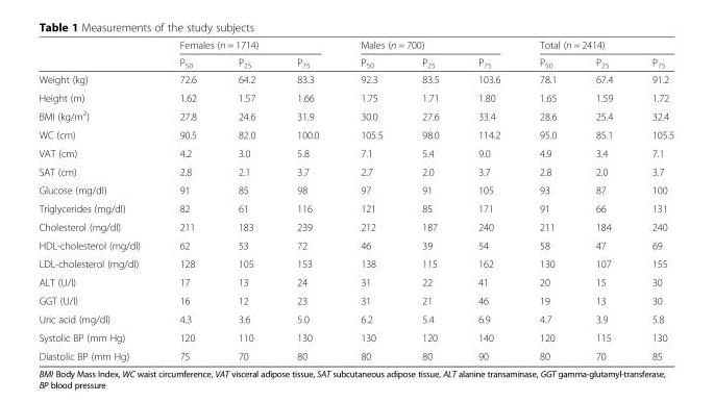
<table><thead><tr><td rowspan="2"></td><td colspan="3">Females (n = 1714)</td><td colspan="3">Males (n = 700)</td><td colspan="3">Total (n = 2414)</td></tr><tr><td>P<sub>50</sub></td><td>P<sub>25</sub></td><td>P<sub>75</sub></td><td>P<sub>50</sub></td><td>P<sub>25</sub></td><td>P<sub>75</sub></td><td>P<sub>50</sub></td><td>P<sub>25</sub></td><td>P<sub>75</sub></td></tr></thead><tbody><tr><td>Weight (kg)</td><td>72.6</td><td>64.2</td><td>83.3</td><td>92.3</td><td>83.5</td><td>103.6</td><td>78.1</td><td>67.4</td><td>91.2</td></tr><tr><td>Height (m)</td><td>1.62</td><td>1.57</td><td>1.66</td><td>1.75</td><td>1.71</td><td>1.80</td><td>1.65</td><td>1.59</td><td>1.72</td></tr><tr><td>BMI (kg/m<sup>2</sup>)</td><td>27.8</td><td>24.6</td><td>31.9</td><td>30.0</td><td>27.6</td><td>33.4</td><td>28.6</td><td>25.4</td><td>32.4</td></tr><tr><td>WC (cm)</td><td>90.5</td><td>82.0</td><td>100.0</td><td>105.5</td><td>98.0</td><td>114.2</td><td>95.0</td><td>85.1</td><td>105.5</td></tr><tr><td>VAT (cm)</td><td>4.2</td><td>3.0</td><td>5.8</td><td>7.1</td><td>5.4</td><td>9.0</td><td>4.9</td><td>3.4</td><td>7.1</td></tr><tr><td>SAT (cm)</td><td>2.8</td><td>2.1</td><td>3.7</td><td>2.7</td><td>2.0</td><td>3.7</td><td>2.8</td><td>2.0</td><td>3.7</td></tr><tr><td>Glucose (mg/dl)</td><td>91</td><td>85</td><td>98</td><td>97</td><td>91</td><td>105</td><td>93</td><td>87</td><td>100</td></tr><tr><td>Triglycerides (mg/dl)</td><td>82</td><td>61</td><td>116</td><td>121</td><td>85</td><td>171</td><td>91</td><td>66</td><td>131</td></tr><tr><td>Cholesterol (mg/dl)</td><td>211</td><td>183</td><td>239</td><td>212</td><td>187</td><td>240</td><td>211</td><td>184</td><td>240</td></tr><tr><td>HDL-cholesterol (mg/dl)</td><td>62</td><td>53</td><td>72</td><td>46</td><td>39</td><td>54</td><td>58</td><td>47</td><td>69</td></tr><tr><td>LDL-cholesterol (mg/dl)</td><td>128</td><td>105</td><td>153</td><td>138</td><td>115</td><td>162</td><td>130</td><td>107</td><td>155</td></tr><tr><td>ALT (U/l)</td><td>17</td><td>13</td><td>24</td><td>31</td><td>22</td><td>41</td><td>20</td><td>15</td><td>30</td></tr><tr><td>GGT (U/l)</td><td>16</td><td>12</td><td>23</td><td>31</td><td>21</td><td>46</td><td>19</td><td>13</td><td>30</td></tr><tr><td>Uric acid (mg/dl)</td><td>4.3</td><td>3.6</td><td>5.0</td><td>6.2</td><td>5.4</td><td>6.9</td><td>4.7</td><td>3.9</td><td>5.8</td></tr><tr><td>Systolic BP (mm Hg)</td><td>120</td><td>110</td><td>130</td><td>130</td><td>120</td><td>140</td><td>120</td><td>115</td><td>130</td></tr><tr><td>Diastolic BP (mm Hg)</td><td>75</td><td>70</td><td>80</td><td>80</td><td>80</td><td>90</td><td>80</td><td>70</td><td>85</td></tr></tbody></table>